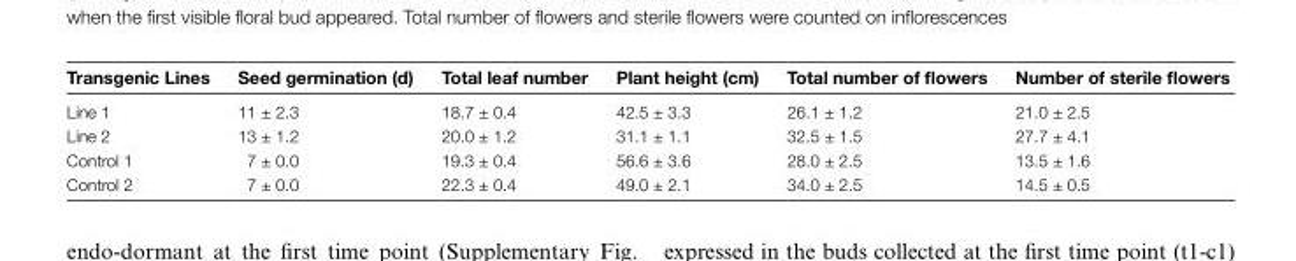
<table><thead><tr><td>Transgenic Lines</td><td>Seed germination (d)</td><td>Total leaf number</td><td>Plant height (cm)</td><td>Total number of flowers</td><td>Number of sterile flowers</td></tr></thead><tbody><tr><td>Line 1</td><td>11 ± 2.3</td><td>18.7 ± 0.4</td><td>42.5 ± 3.3</td><td>26.1 ± 1.2</td><td>21.0 ± 2.5</td></tr><tr><td>Line 2</td><td>13 ± 1.2</td><td>20.0 ± 1.2</td><td>31.1 ± 1.1</td><td>32.5 ± 1.5</td><td>27.7 ± 4.1</td></tr><tr><td>Control 1</td><td>7 ± 0.0</td><td>19.3 ± 0.4</td><td>56.6 ± 3.6</td><td>28.0 ± 2.5</td><td>13.5 ± 1.6</td></tr><tr><td>Control 2</td><td>7 ± 0.0</td><td>22.3 ± 0.4</td><td>49.0 ± 2.1</td><td>34.0 ± 2.5</td><td>14.5 ± 0.5</td></tr></tbody></table>